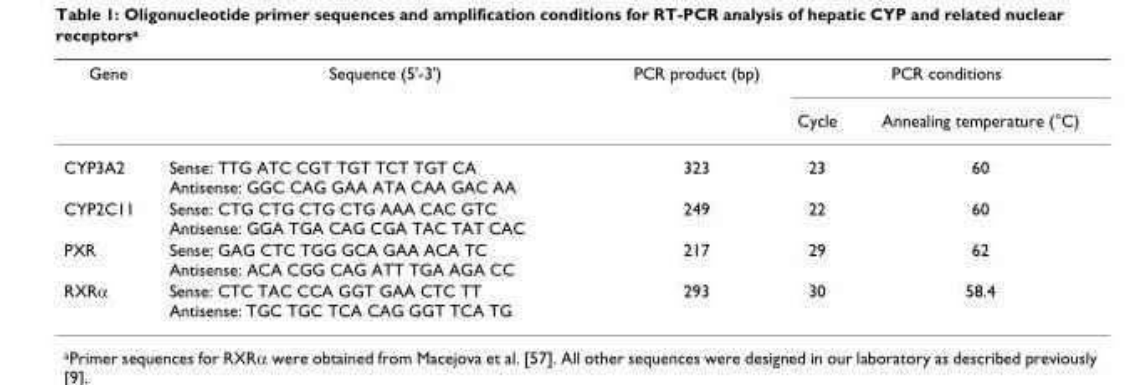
<table><thead><tr><td rowspan="2">Gene</td><td rowspan="2">Sequence (5&#x27;-3&#x27;)</td><td rowspan="2">PCR product (bp)</td><td colspan="2">PCR conditions</td></tr><tr><td>Cycle</td><td>Annealing temperature (°C)</td></tr></thead><tbody><tr><td>CYP3A2</td><td>Sense: TTG ATC CGT TGT TCT TGT CA Antisense: GGC CAG GAA ATA CAA GAC AA</td><td>323</td><td>23</td><td>60</td></tr><tr><td>CYP2C11</td><td>Sense: CTG CTG CTG CTG AAA CAC GTC Antisense: GGA TGA CAG CGA TAC TAT CAC</td><td>249</td><td>22</td><td>60</td></tr><tr><td>PXR</td><td>Sense: GAG CTC TGG GCA GAA ACA TC Antisense: ACA CGG CAG ATT TGA AGA CC</td><td>217</td><td>29</td><td>62</td></tr><tr><td>RXRα</td><td>Sense: CTC TAC CCA GGT GAA CTC TT Antisense: TGC TGC TCA CAG GGT TCA TG</td><td>293</td><td>30</td><td>58.4</td></tr></tbody></table>